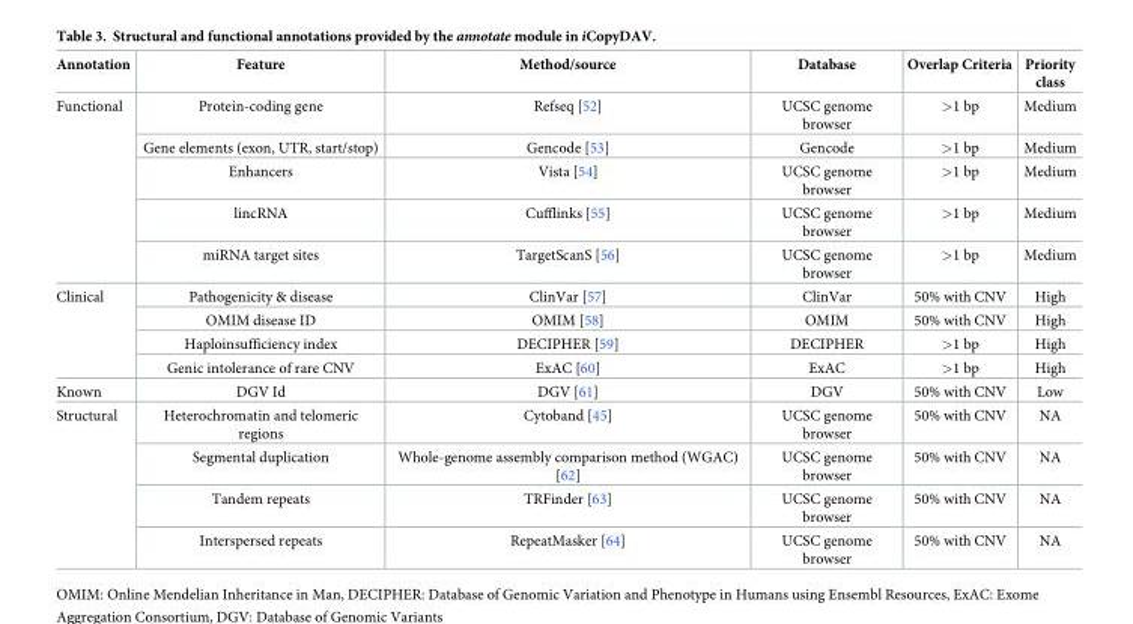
<table><thead><tr><td>Annotation</td><td>Feature</td><td>Method/source</td><td>Database</td><td>Overlap Criteria</td><td>Priority class</td></tr></thead><tbody><tr><td rowspan="5">Functional</td><td>Protein-coding gene</td><td>Refseq [52]</td><td>UCSC genome browser</td><td>&gt;1 bp</td><td>Medium</td></tr><tr><td>Gene elements (exon, UTR, start/stop)</td><td>Gencode [53]</td><td>Gencode</td><td>&gt;1 bp</td><td>Medium</td></tr><tr><td>Enhancers</td><td>Vista [54]</td><td>UCSC genome browser</td><td>&gt;1 bp</td><td>Medium</td></tr><tr><td>lincRNA</td><td>Cufflinks [55]</td><td>UCSC genome browser</td><td>&gt;1 bp</td><td>Medium</td></tr><tr><td>miRNA target sites</td><td>TargetScanS [56]</td><td>UCSC genome browser</td><td>&gt;1 bp</td><td>Medium</td></tr><tr><td rowspan="4">Clinical</td><td>Pathogenicity &amp; disease</td><td>ClinVar [57]</td><td>ClinVar</td><td>50% with CNV</td><td>High</td></tr><tr><td>OMIM disease ID</td><td>OMIM [58]</td><td>OMIM</td><td>50% with CNV</td><td>High</td></tr><tr><td>Haploinsufficiency index</td><td>DECIPHER [59]</td><td>DECIPHER</td><td>&gt;1 bp</td><td>High</td></tr><tr><td>Genic intolerance of rare CNV</td><td>ExAC [60]</td><td>ExAC</td><td>&gt;1 bp</td><td>High</td></tr><tr><td>Known</td><td>DGV Id</td><td>DGV [61]</td><td>DGV</td><td>50% with CNV</td><td>Low</td></tr><tr><td rowspan="4">Structural</td><td>Heterochromatin and telomeric regions</td><td>Cytoband [45]</td><td>UCSC genome browser</td><td>50% with CNV</td><td>NA</td></tr><tr><td>Segmental duplication</td><td>Whole-genome assembly comparison method (WGAC) [62]</td><td>UCSC genome browser</td><td>50% with CNV</td><td>NA</td></tr><tr><td>Tandem repeats</td><td>TRFinder [63]</td><td>UCSC genome browser</td><td>50% with CNV</td><td>NA</td></tr><tr><td>Interspersed repeats</td><td>RepeatMasker [64]</td><td>UCSC genome browser</td><td>50% with CNV</td><td>NA</td></tr></tbody></table>